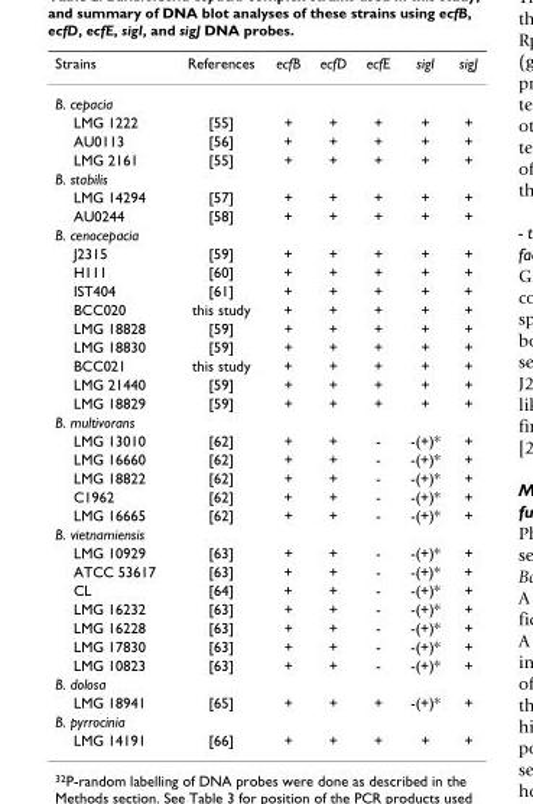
<table><thead><tr><td>Strains</td><td>References</td><td>ecfB</td><td>ecfD</td><td>ecfE</td><td>sigI</td><td>sigJ</td></tr></thead><tbody><tr><td colspan="7">B. cepacia</td></tr><tr><td>LMG 1222</td><td>[55]</td><td>+</td><td>+</td><td>+</td><td>+</td><td>+</td></tr><tr><td>AU0113</td><td>[56]</td><td>+</td><td>+</td><td>+</td><td>+</td><td>+</td></tr><tr><td>LMG 2161</td><td>[55]</td><td>+</td><td>+</td><td>+</td><td>+</td><td>+</td></tr><tr><td colspan="7">B. stabilis</td></tr><tr><td>LMG 14294</td><td>[57]</td><td>+</td><td>+</td><td>+</td><td>+</td><td>+</td></tr><tr><td>AU0244</td><td>[58]</td><td>+</td><td>+</td><td>+</td><td>+</td><td>+</td></tr><tr><td colspan="7">B. cenocepacia</td></tr><tr><td>J2315</td><td>[59]</td><td>+</td><td>+</td><td>+</td><td>+</td><td>+</td></tr><tr><td>H111</td><td>[60]</td><td>+</td><td>+</td><td>+</td><td>+</td><td>+</td></tr><tr><td>IST404</td><td>[61]</td><td>+</td><td>+</td><td>+</td><td>+</td><td>+</td></tr><tr><td>BCC020</td><td>this study</td><td>+</td><td>+</td><td>+</td><td>+</td><td>+</td></tr><tr><td>LMG 18828</td><td>[59]</td><td>+</td><td>+</td><td>+</td><td>+</td><td>+</td></tr><tr><td>LMG 18830</td><td>[59]</td><td>+</td><td>+</td><td>+</td><td>+</td><td>+</td></tr><tr><td>BCC021</td><td>this study</td><td>+</td><td>+</td><td>+</td><td>+</td><td>+</td></tr><tr><td>LMG 21440</td><td>[59]</td><td>+</td><td>+</td><td>+</td><td>+</td><td>+</td></tr><tr><td>LMG 18829</td><td>[59]</td><td>+</td><td>+</td><td>+</td><td>+</td><td>+</td></tr><tr><td colspan="7">B. multivorans</td></tr><tr><td>LMG 13010</td><td>[62]</td><td>+</td><td>+</td><td>-</td><td>-(+)*</td><td>+</td></tr><tr><td>LMG 16660</td><td>[62]</td><td>+</td><td>+</td><td>-</td><td>-(+)*</td><td>+</td></tr><tr><td>LMG 18822</td><td>[62]</td><td>+</td><td>+</td><td>-</td><td>-(+)*</td><td>+</td></tr><tr><td>C1962</td><td>[62]</td><td>+</td><td>+</td><td>-</td><td>-(+)*</td><td>+</td></tr><tr><td>LMG 16665</td><td>[62]</td><td>+</td><td>+</td><td>-</td><td>-(+)*</td><td>+</td></tr><tr><td colspan="7">B. vietnamiensis</td></tr><tr><td>LMG 10929</td><td>[63]</td><td>+</td><td>+</td><td>-</td><td>-(+)*</td><td>+</td></tr><tr><td>ATCC 53617</td><td>[63]</td><td>+</td><td>+</td><td>-</td><td>-(+)*</td><td>+</td></tr><tr><td>CL</td><td>[64]</td><td>+</td><td>+</td><td>-</td><td>-(+)*</td><td>+</td></tr><tr><td>LMG 16232</td><td>[63]</td><td>+</td><td>+</td><td>-</td><td>-(+)*</td><td>+</td></tr><tr><td>LMG 16228</td><td>[63]</td><td>+</td><td>+</td><td>-</td><td>-(+)*</td><td>+</td></tr><tr><td>LMG 17830</td><td>[63]</td><td>+</td><td>+</td><td>-</td><td>-(+)*</td><td>+</td></tr><tr><td>LMG 10823</td><td>[63]</td><td>+</td><td>+</td><td>-</td><td>-(+)*</td><td>+</td></tr><tr><td colspan="7">B. dolosa</td></tr><tr><td>LMG 18941</td><td>[65]</td><td>+</td><td>+</td><td>+</td><td>-(+)*</td><td>+</td></tr><tr><td colspan="7">B. pyrrocinia</td></tr><tr><td>LMG 14191</td><td>[66]</td><td>+</td><td>+</td><td>+</td><td>+</td><td>+</td></tr></tbody></table>